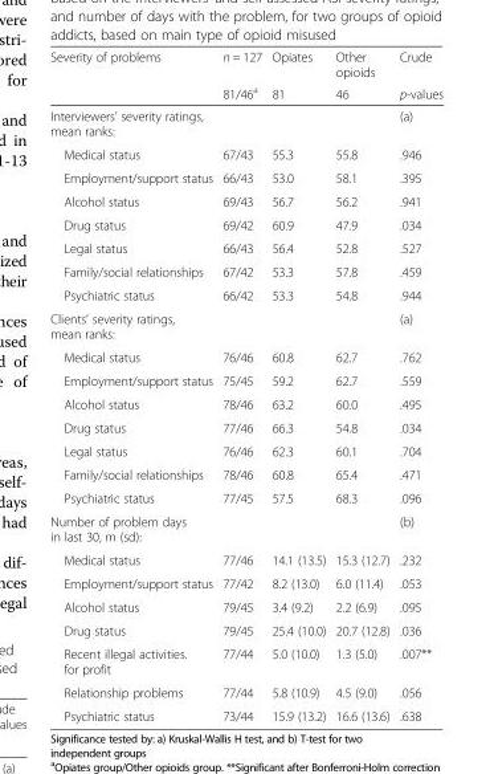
<table><thead><tr><td rowspan="2">Severity of problems</td><td rowspan="2">n = 127 81/46<sup>a</sup></td><td rowspan="2">Opiates 81</td><td rowspan="2">Other opioids 46</td><td rowspan="2">Crude p-values</td></tr><tr></tr></thead><tbody><tr><td>Interviewers’ severity ratings, mean ranks:</td><td></td><td></td><td></td><td>(a)</td></tr><tr><td>Medical status</td><td>67/43</td><td>55.3</td><td>55.8</td><td>.946</td></tr><tr><td>Employment/support status</td><td>66/43</td><td>53.0</td><td>58.1</td><td>.395</td></tr><tr><td>Alcohol status</td><td>69/43</td><td>56.7</td><td>56.2</td><td>.941</td></tr><tr><td>Drug status</td><td>69/42</td><td>60.9</td><td>47.9</td><td>.034</td></tr><tr><td>Legal status</td><td>66/43</td><td>56.4</td><td>52.8</td><td>.527</td></tr><tr><td>Family/social relationships</td><td>67/42</td><td>53.3</td><td>57.8</td><td>.459</td></tr><tr><td>Psychiatric status</td><td>66/42</td><td>53.3</td><td>54.8</td><td>.944</td></tr><tr><td>Clients’ severity ratings, mean ranks:</td><td></td><td></td><td></td><td>(a)</td></tr><tr><td>Medical status</td><td>76/46</td><td>60.8</td><td>62.7</td><td>.762</td></tr><tr><td>Employment/support status</td><td>75/45</td><td>59.2</td><td>62.7</td><td>.559</td></tr><tr><td>Alcohol status</td><td>78/46</td><td>63.2</td><td>60.0</td><td>.495</td></tr><tr><td>Drug status</td><td>77/46</td><td>66.3</td><td>54.8</td><td>.034</td></tr><tr><td>Legal status</td><td>76/46</td><td>62.3</td><td>60.1</td><td>.704</td></tr><tr><td>Family/social relationships</td><td>78/46</td><td>60.8</td><td>65.4</td><td>.471</td></tr><tr><td>Psychiatric status</td><td>77/45</td><td>57.5</td><td>68.3</td><td>.096</td></tr><tr><td>Number of problem days in last 30, m (sd):</td><td></td><td></td><td></td><td>(b)</td></tr><tr><td>Medical status</td><td>77/46</td><td>14.1 (13.5)</td><td>15.3 (12.7)</td><td>.232</td></tr><tr><td>Employment/support status</td><td>77/42</td><td>8.2 (13.0)</td><td>6.0 (11.4)</td><td>.053</td></tr><tr><td>Alcohol status</td><td>79/45</td><td>3.4 (9.2)</td><td>2.2 (6.9)</td><td>.095</td></tr><tr><td>Drug status</td><td>79/45</td><td>25.4 (10.0)</td><td>20.7 (12.8)</td><td>.036</td></tr><tr><td>Recent illegal activities. for profit</td><td>77/44</td><td>5.0 (10.0)</td><td>1.3 (5.0)</td><td>.007**</td></tr><tr><td>Relationship problems</td><td>77/44</td><td>5.8 (10.9)</td><td>4.5 (9.0)</td><td>.056</td></tr><tr><td>Psychiatric status</td><td>73/44</td><td>15.9 (13.2)</td><td>16.6 (13.6)</td><td>.638</td></tr></tbody></table>